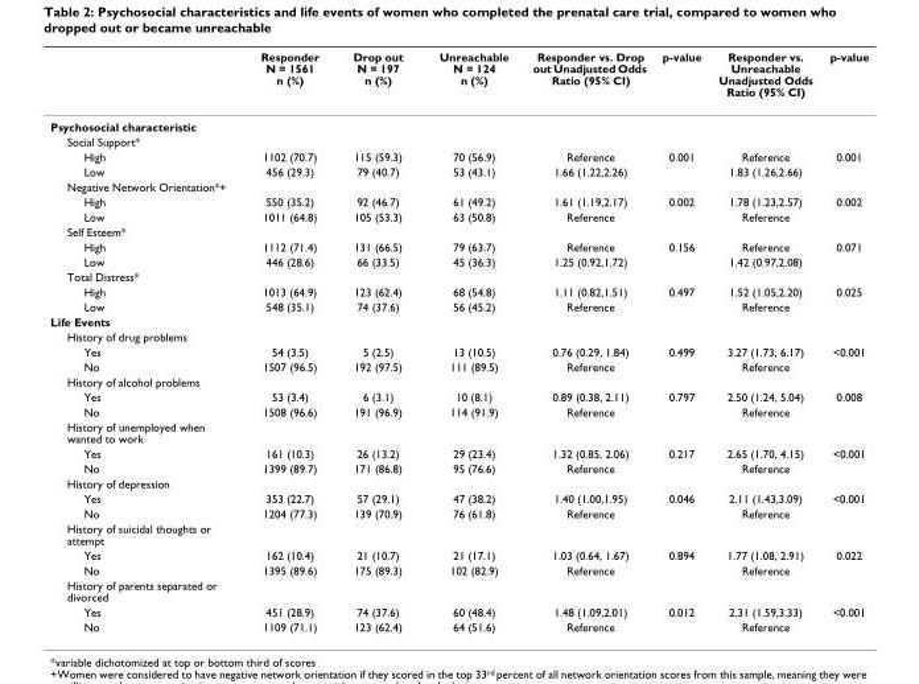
<table><thead><tr><td></td><td>Responder N = 1561 n (%)</td><td>Drop out N = 197 n (%)</td><td>Unreachable N = 124 n (%)</td><td>Responder vs. Drop out Unadjusted Odds Ratio (95% CI)</td><td>p-value</td><td>Responder vs. Unreachable Unadjusted Odds Ratio (95% CI)</td><td>p-value</td></tr></thead><tbody><tr><td colspan="8">Psychosocial characteristic</td></tr><tr><td colspan="8">Social Support*</td></tr><tr><td>High</td><td>1102 (70.7)</td><td>115 (59.3)</td><td>70 (56.9)</td><td>Reference</td><td>0.001</td><td>Reference</td><td>0.001</td></tr><tr><td>Low</td><td>456 (29.3)</td><td>79 (40.7)</td><td>53 (43.1)</td><td>1.66 (1.22,2.26)</td><td></td><td>1.83 (1.26,2.66)</td><td></td></tr><tr><td colspan="8">Negative Network Orientation*+</td></tr><tr><td>High</td><td>550 (35.2)</td><td>92 (46.7)</td><td>61 (49.2)</td><td>1.61 (1.19,2.17)</td><td>0.002</td><td>1.78 (1.23,2.57)</td><td>0.002</td></tr><tr><td>Low</td><td>1011 (64.8)</td><td>105 (53.3)</td><td>63 (50.8)</td><td>Reference</td><td></td><td>Reference</td><td></td></tr><tr><td colspan="8">Self Esteem*</td></tr><tr><td>High</td><td>1112 (71.4)</td><td>131 (66.5)</td><td>79 (63.7)</td><td>Reference</td><td>0.156</td><td>Reference</td><td>0.071</td></tr><tr><td>Low</td><td>446 (28.6)</td><td>66 (33.5)</td><td>45 (36.3)</td><td>1.25 (0.92,1.72)</td><td></td><td>1.42 (0.97,2.08)</td><td></td></tr><tr><td colspan="8">Total Distress*</td></tr><tr><td>High</td><td>1013 (64.9)</td><td>123 (62.4)</td><td>68 (54.8)</td><td>1.11 (0.82,1.51)</td><td>0.497</td><td>1.52 (1.05,2.20)</td><td>0.025</td></tr><tr><td>Low</td><td>548 (35.1)</td><td>74 (37.6)</td><td>56 (45.2)</td><td>Reference</td><td></td><td>Reference</td><td></td></tr><tr><td colspan="8">Life Events</td></tr><tr><td colspan="8">History of drug problems</td></tr><tr><td>Yes</td><td>54 (3.5)</td><td>5 (2.5)</td><td>13 (10.5)</td><td>0.76 (0.29, 1.84)</td><td>0.499</td><td>3.27 (1.73, 6.17)</td><td>&lt;0.001</td></tr><tr><td>No</td><td>1507 (96.5)</td><td>192 (97.5)</td><td>111 (89.5)</td><td>Reference</td><td></td><td>Reference</td><td></td></tr><tr><td colspan="8">History of alcohol problems</td></tr><tr><td>Yes</td><td>53 (3.4)</td><td>6 (3.1)</td><td>10 (8.1)</td><td>0.89 (0.38, 2.11)</td><td>0.797</td><td>2.50 (1.24, 5.04)</td><td>0.008</td></tr><tr><td>No</td><td>1508 (96.6)</td><td>191 (96.9)</td><td>114 (91.9)</td><td>Reference</td><td></td><td>Reference</td><td></td></tr><tr><td colspan="8">History of unemployed when wanted to work</td></tr><tr><td>Yes</td><td>161 (10.3)</td><td>26 (13.2)</td><td>29 (23.4)</td><td>1.32 (0.85, 2.06)</td><td>0.217</td><td>2.65 (1.70, 4.15)</td><td>&lt;0.001</td></tr><tr><td>No</td><td>1399 (89.7)</td><td>171 (86.8)</td><td>95 (76.6)</td><td>Reference</td><td></td><td>Reference</td><td></td></tr><tr><td colspan="8">History of depression</td></tr><tr><td>Yes</td><td>353 (22.7)</td><td>57 (29.1)</td><td>47 (38.2)</td><td>1.40 (1.00,1.95)</td><td>0.046</td><td>2.11 (1.43,3.09)</td><td>&lt;0.001</td></tr><tr><td>No</td><td>1204 (77.3)</td><td>139 (70.9)</td><td>76 (61.8)</td><td>Reference</td><td></td><td>Reference</td><td></td></tr><tr><td colspan="8">History of suicidal thoughts or attempt</td></tr><tr><td>Yes</td><td>162 (10.4)</td><td>21 (10.7)</td><td>21 (17.1)</td><td>1.03 (0.64, 1.67)</td><td>0.894</td><td>1.77 (1.08, 2.91)</td><td>0.022</td></tr><tr><td>No</td><td>1395 (89.6)</td><td>175 (89.3)</td><td>102 (82.9)</td><td>Reference</td><td></td><td>Reference</td><td></td></tr><tr><td colspan="8">History of parents separated or divorced</td></tr><tr><td>Yes</td><td>451 (28.9)</td><td>74 (37.6)</td><td>60 (48.4)</td><td>1.48 (1.09,2.01)</td><td>0.012</td><td>2.31 (1.59,3.33)</td><td>&lt;0.001</td></tr><tr><td>No</td><td>1109 (71.1)</td><td>123 (62.4)</td><td>64 (51.6)</td><td>Reference</td><td></td><td>Reference</td><td></td></tr></tbody></table>